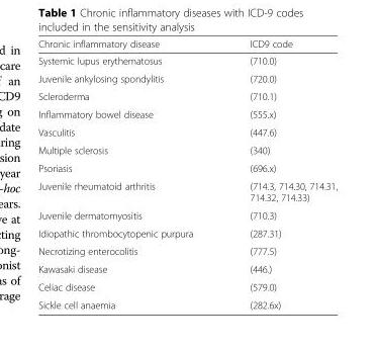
<table><thead><tr><td>Chronic inflammatory disease</td><td>ICD9 code</td></tr></thead><tbody><tr><td>Systemic lupus erythematosus</td><td>(710.0)</td></tr><tr><td>Juvenile ankylosing spondylitis</td><td>(720.0)</td></tr><tr><td>Scleroderma</td><td>(710.1)</td></tr><tr><td>Inflammatory bowel disease</td><td>(555.x)</td></tr><tr><td>Vasculitis</td><td>(447.6)</td></tr><tr><td>Multiple sclerosis</td><td>(340)</td></tr><tr><td>Psoriasis</td><td>(696.x)</td></tr><tr><td>Juvenile rheumatoid arthritis</td><td>(714.3, 714.30, 714.31, 714.32, 714.33)</td></tr><tr><td>Juvenile dermatomyositis</td><td>(710.3)</td></tr><tr><td>Idiopathic thrombocytopenic purpura</td><td>(287.31)</td></tr><tr><td>Necrotizing enterocolitis</td><td>(777.5)</td></tr><tr><td>Kawasaki disease</td><td>(446.)</td></tr><tr><td>Celiac disease</td><td>(579.0)</td></tr><tr><td>Sickle cell anaemia</td><td>(282.6x)</td></tr></tbody></table>